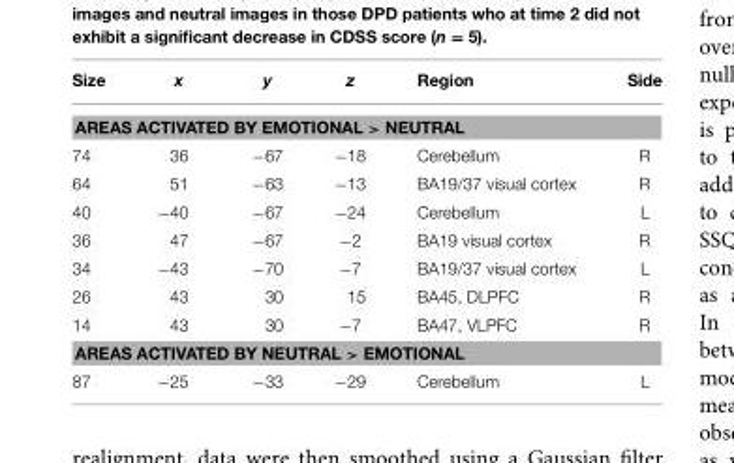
<table><thead><tr><td>Size</td><td>x</td><td>y</td><td>z</td><td>Region</td><td>Side</td></tr></thead><tbody><tr><td colspan="6">AREAS ACTIVATED BY EMOTIONAL &gt; NEUTRAL</td></tr><tr><td>74</td><td>36</td><td>−67</td><td>−18</td><td>Cerebellum</td><td>R</td></tr><tr><td>64</td><td>51</td><td>−63</td><td>−13</td><td>BA19/37 visual cortex</td><td>R</td></tr><tr><td>40</td><td>−40</td><td>−67</td><td>−24</td><td>Cerebellum</td><td>L</td></tr><tr><td>36</td><td>47</td><td>−67</td><td>−2</td><td>BA19 visual cortex</td><td>R</td></tr><tr><td>34</td><td>−43</td><td>−70</td><td>−7</td><td>BA19/37 visual cortex</td><td>L</td></tr><tr><td>26</td><td>43</td><td>30</td><td>15</td><td>BA45, DLPFC</td><td>R</td></tr><tr><td>14</td><td>43</td><td>30</td><td>−7</td><td>BA47, VLPFC</td><td>R</td></tr><tr><td colspan="6">AREAS ACTIVATED BY NEUTRAL &gt; EMOTIONAL</td></tr><tr><td>87</td><td>−25</td><td>−33</td><td>−29</td><td>Cerebellum</td><td>L</td></tr></tbody></table>